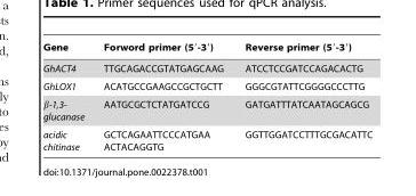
<table><thead><tr><td>Gene</td><td>Forword primer (5′-3′)</td><td>Reverse primer (5′-3′)</td></tr></thead><tbody><tr><td>GhACT4</td><td>TTGCAGACCGTATGAGCAAG</td><td>ATCCTCCGATCCAGACACTG</td></tr><tr><td>GhLOX1</td><td>ACATGCCGAAGCCGCTGCTT</td><td>GGGCGTATTCGGGGCCCTTG</td></tr><tr><td>β-1,3- glucanase</td><td>AATGCGCTCTATGATCCG</td><td>GATGATTTATCAATAGCAGCG</td></tr><tr><td>acidic chitinase</td><td>GCTCAGAATTCCCATGAA ACTACAGGTG</td><td>GGTTGGATCCTTTGCGACATTC</td></tr></tbody></table>